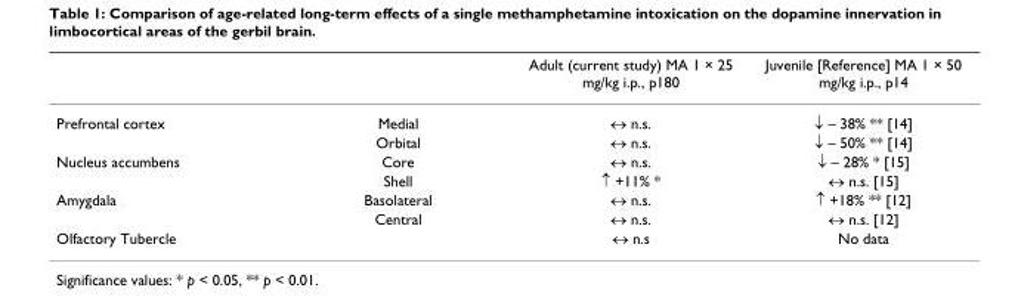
<table><thead><tr><td></td><td></td><td>Adult (current study) MA 1 × 25 mg/kg i.p., p180</td><td>Juvenile [Reference] MA 1 × 50 mg/kg i.p., p14</td></tr></thead><tbody><tr><td rowspan="2">Prefrontal cortex</td><td>Medial</td><td>↔ n.s.</td><td>↓ – 38% ** [14]</td></tr><tr><td>Orbital</td><td>↔ n.s.</td><td>↓ – 50% ** [14]</td></tr><tr><td rowspan="2">Nucleus accumbens</td><td>Core</td><td>↔ n.s.</td><td>↓ – 28% * [15]</td></tr><tr><td>Shell</td><td>↑ +11% *</td><td>↔ n.s. [15]</td></tr><tr><td rowspan="2">Amygdala</td><td>Basolateral</td><td>↔ n.s.</td><td>↑ +18% ** [12]</td></tr><tr><td>Central</td><td>↔ n.s.</td><td>↔ n.s. [12]</td></tr><tr><td>Olfactory Tubercle</td><td></td><td>↔ n.s</td><td>No data</td></tr></tbody></table>